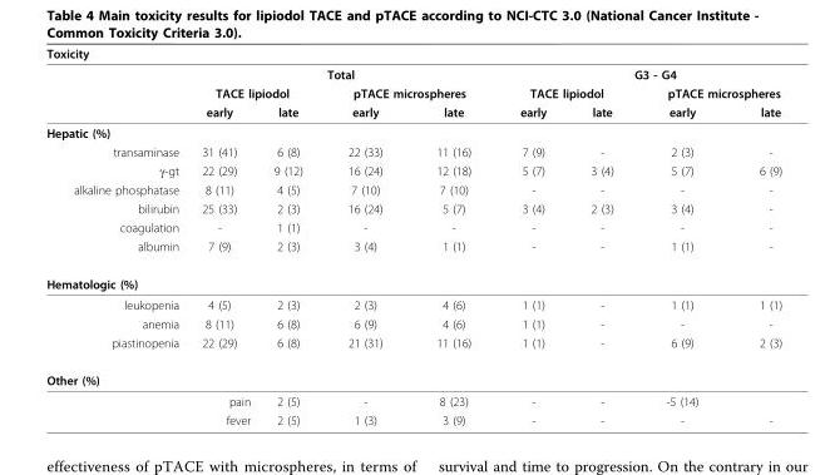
<table><thead><tr><td>Toxicity</td><td></td><td></td><td></td><td></td><td></td><td></td><td></td><td></td></tr></thead><tbody><tr><td></td><td colspan="4">Total</td><td colspan="4">G3 - G4</td></tr><tr><td></td><td colspan="2">TACE lipiodol</td><td colspan="2">pTACE microspheres</td><td colspan="2">TACE lipiodol</td><td colspan="2">pTACE microspheres</td></tr><tr><td></td><td>early</td><td>late</td><td>early</td><td>late</td><td>early</td><td>late</td><td>early</td><td>late</td></tr><tr><td colspan="9">Hepatic (%)</td></tr><tr><td>transaminase</td><td>31 (41)</td><td>6 (8)</td><td>22 (33)</td><td>11 (16)</td><td>7 (9)</td><td>-</td><td>2 (3)</td><td>-</td></tr><tr><td>γ-gt</td><td>22 (29)</td><td>9 (12)</td><td>16 (24)</td><td>12 (18)</td><td>5 (7)</td><td>3 (4)</td><td>5 (7)</td><td>6 (9)</td></tr><tr><td>alkaline phosphatase</td><td>8 (11)</td><td>4 (5)</td><td>7 (10)</td><td>7 (10)</td><td>-</td><td>-</td><td>-</td><td>-</td></tr><tr><td>bilirubin</td><td>25 (33)</td><td>2 (3)</td><td>16 (24)</td><td>5 (7)</td><td>3 (4)</td><td>2 (3)</td><td>3 (4)</td><td>-</td></tr><tr><td>coagulation</td><td>-</td><td>1 (1)</td><td>-</td><td>-</td><td>-</td><td>-</td><td>-</td><td>-</td></tr><tr><td>albumin</td><td>7 (9)</td><td>2 (3)</td><td>3 (4)</td><td>1 (1)</td><td>-</td><td>-</td><td>1 (1)</td><td>-</td></tr><tr><td colspan="9">Hematologic (%)</td></tr><tr><td>leukopenia</td><td>4 (5)</td><td>2 (3)</td><td>2 (3)</td><td>4 (6)</td><td>1 (1)</td><td>-</td><td>1 (1)</td><td>1 (1)</td></tr><tr><td>anemia</td><td>8 (11)</td><td>6 (8)</td><td>6 (9)</td><td>4 (6)</td><td>1 (1)</td><td>-</td><td>-</td><td>-</td></tr><tr><td>piastinopenia</td><td>22 (29)</td><td>6 (8)</td><td>21 (31)</td><td>11 (16)</td><td>1 (1)</td><td>-</td><td>6 (9)</td><td>2 (3)</td></tr><tr><td colspan="9">Other (%)</td></tr><tr><td></td><td>pain</td><td>2 (5)</td><td>-</td><td>8 (23)</td><td>-</td><td>-</td><td>-5 (14)</td><td></td></tr><tr><td></td><td>fever</td><td>2 (5)</td><td>1 (3)</td><td>3 (9)</td><td>-</td><td>-</td><td>-</td><td>-</td></tr></tbody></table>